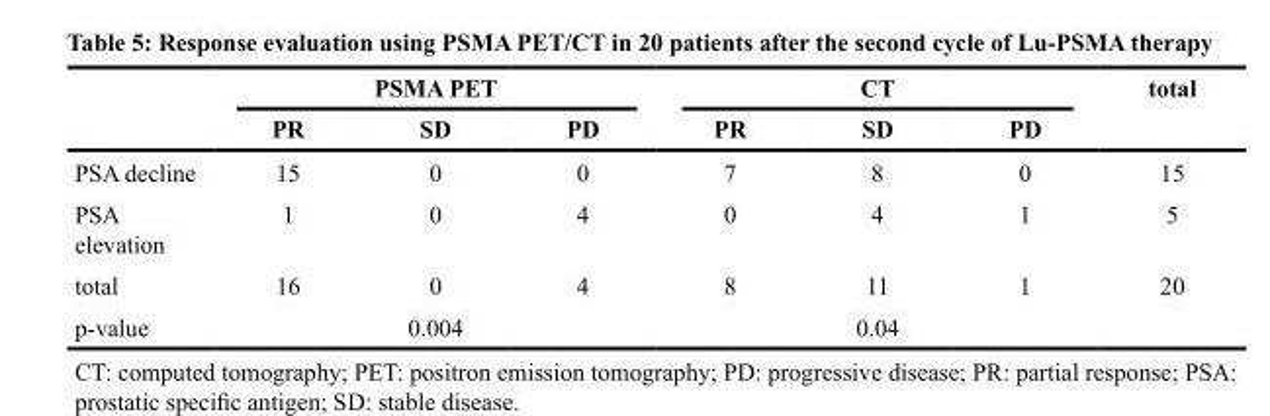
<table><thead><tr><td rowspan="2"></td><td colspan="3">PSMA PET</td><td colspan="3">CT</td><td rowspan="2">total</td></tr><tr><td>PR</td><td>SD</td><td>PD</td><td>PR</td><td>SD</td><td>PD</td></tr></thead><tbody><tr><td>PSA decline</td><td>15</td><td>0</td><td>0</td><td>7</td><td>8</td><td>0</td><td>15</td></tr><tr><td>PSA elevation</td><td>1</td><td>0</td><td>4</td><td>0</td><td>4</td><td>1</td><td>5</td></tr><tr><td>total</td><td>16</td><td>0</td><td>4</td><td>8</td><td>11</td><td>1</td><td>20</td></tr><tr><td>p-value</td><td></td><td>0.004</td><td></td><td></td><td>0.04</td><td></td><td></td></tr></tbody></table>